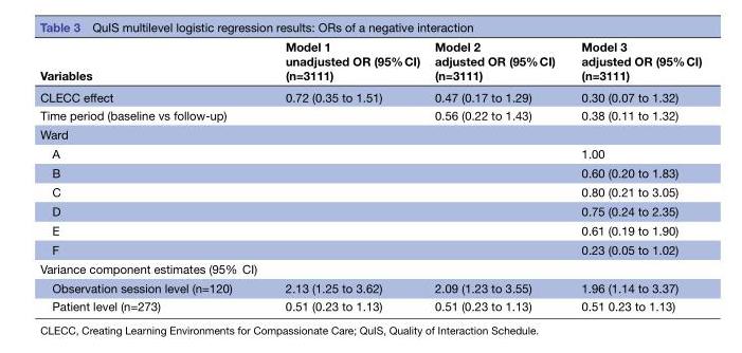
<table><thead><tr><td>Variables</td><td>Model 1 unadjusted OR (95% CI) (n=3111)</td><td>Model 2 adjusted OR (95% CI) (n=3111)</td><td>Model 3 adjusted OR (95% CI) (n=3111)</td></tr></thead><tbody><tr><td>CLECC effect</td><td>0.72 (0.35 to 1.51)</td><td>0.47 (0.17 to 1.29)</td><td>0.30 (0.07 to 1.32)</td></tr><tr><td>Time period (baseline vs follow-up)</td><td></td><td>0.56 (0.22 to 1.43)</td><td>0.38 (0.11 to 1.32)</td></tr><tr><td colspan="4">Ward</td></tr><tr><td>A</td><td></td><td></td><td>1.00</td></tr><tr><td>B</td><td></td><td></td><td>0.60 (0.20 to 1.83)</td></tr><tr><td>C</td><td></td><td></td><td>0.80 (0.21 to 3.05)</td></tr><tr><td>D</td><td></td><td></td><td>0.75 (0.24 to 2.35)</td></tr><tr><td>E</td><td></td><td></td><td>0.61 (0.19 to 1.90)</td></tr><tr><td>F</td><td></td><td></td><td>0.23 (0.05 to 1.02)</td></tr><tr><td colspan="4">Variance component estimates (95% CI)</td></tr><tr><td>Observation session level (n=120)</td><td>2.13 (1.25 to 3.62)</td><td>2.09 (1.23 to 3.55)</td><td>1.96 (1.14 to 3.37)</td></tr><tr><td>Patient level (n=273)</td><td>0.51 (0.23 to 1.13)</td><td>0.51 (0.23 to 1.13)</td><td>0.51 0.23 to 1.13)</td></tr></tbody></table>